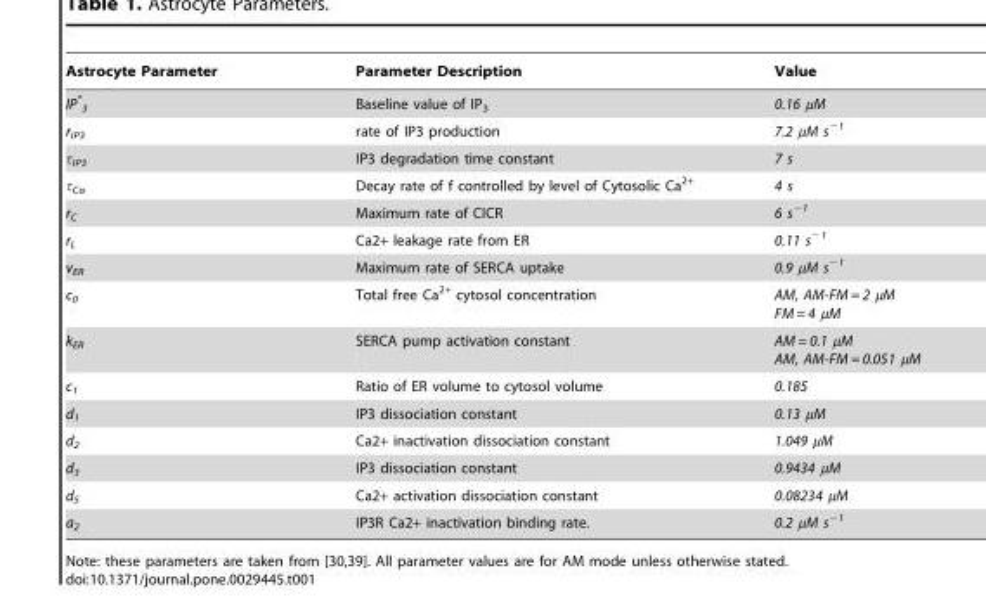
<table><thead><tr><td>Astrocyte Parameter</td><td>Parameter Description</td><td>Value</td></tr></thead><tbody><tr><td>IP* <sub>3</sub></td><td>Baseline value of IP<sub>3</sub></td><td>0.16 µM</td></tr><tr><td>r<sub>IP3</sub></td><td>rate of IP3 production</td><td>7.2 µM s<sup>−1</sup></td></tr><tr><td>τ<sub>IP3</sub></td><td>IP3 degradation time constant</td><td>7 s</td></tr><tr><td>τ<sub>Ca</sub></td><td>Decay rate of f controlled by level of Cytosolic Ca<sup>2+</sup></td><td>4 s</td></tr><tr><td>r<sub>C</sub></td><td>Maximum rate of CICR</td><td>6 s<sup>−1</sup></td></tr><tr><td>r<sub>L</sub></td><td>Ca2+ leakage rate from ER</td><td>0.11 s<sup>−1</sup></td></tr><tr><td>v<sub>ER</sub></td><td>Maximum rate of SERCA uptake</td><td>0.9 µM s<sup>−1</sup></td></tr><tr><td>c<sub>0</sub></td><td>Total free Ca<sup>2+</sup> cytosol concentration</td><td>AM, AM-FM = 2 µM FM = 4 µM</td></tr><tr><td>k<sub>ER</sub></td><td>SERCA pump activation constant</td><td>AM = 0.1 µM AM, AM-FM = 0.051 µM</td></tr><tr><td>c<sub>1</sub></td><td>Ratio of ER volume to cytosol volume</td><td>0.185</td></tr><tr><td>d<sub>1</sub></td><td>IP3 dissociation constant</td><td>0.13 µM</td></tr><tr><td>d<sub>2</sub></td><td>Ca2+ inactivation dissociation constant</td><td>1.049 µM</td></tr><tr><td>d<sub>3</sub></td><td>IP3 dissociation constant</td><td>0.9434 µM</td></tr><tr><td>d<sub>5</sub></td><td>Ca2+ activation dissociation constant</td><td>0.08234 µM</td></tr><tr><td>a<sub>2</sub></td><td>IP3R Ca2+ inactivation binding rate.</td><td>0.2 µM s<sup>−1</sup></td></tr></tbody></table>